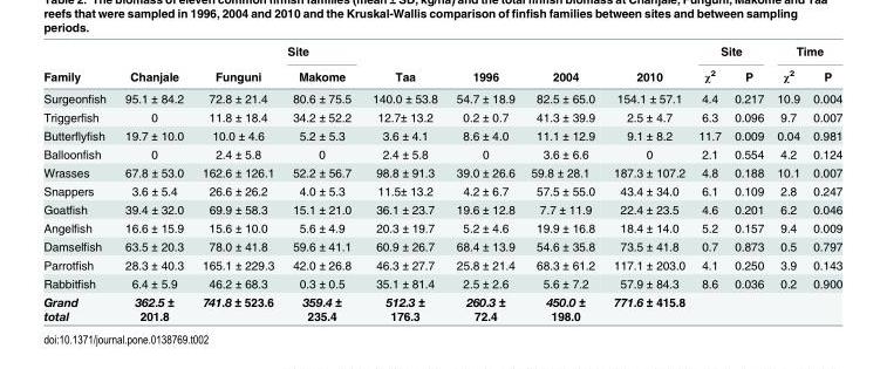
<table><thead><tr><td rowspan="2">Family</td><td rowspan="2">Chanjale</td><td rowspan="2">Funguni</td><td rowspan="2">Site Makome</td><td rowspan="2">Taa</td><td rowspan="2">1996</td><td rowspan="2">2004</td><td rowspan="2">2010</td><td colspan="2">Site</td><td colspan="2">Time</td></tr><tr><td>χ<sup>2</sup></td><td>P</td><td>χ<sup>2</sup></td><td>P</td></tr></thead><tbody><tr><td>Surgeonfish</td><td>95.1 ± 84.2</td><td>72.8 ± 21.4</td><td>80.6 ± 75.5</td><td>140.0 ± 53.8</td><td>54.7 ± 18.9</td><td>82.5 ± 65.0</td><td>154.1 ± 57.1</td><td>4.4</td><td>0.217</td><td>10.9</td><td>0.004</td></tr><tr><td>Triggerfish</td><td>0</td><td>11.8 ± 18.4</td><td>34.2 ± 52.2</td><td>12.7± 13.2</td><td>0.2 ± 0.7</td><td>41.3 ± 39.9</td><td>2.5 ± 4.7</td><td>6.3</td><td>0.096</td><td>9.7</td><td>0.007</td></tr><tr><td>Butterflyfish</td><td>19.7 ± 10.0</td><td>10.0 ± 4.6</td><td>5.2 ± 5.3</td><td>3.6 ± 4.1</td><td>8.6 ± 4.0</td><td>11.1 ± 12.9</td><td>9.1 ± 8.2</td><td>11.7</td><td>0.009</td><td>0.04</td><td>0.981</td></tr><tr><td>Balloonfish</td><td>0</td><td>2.4 ± 5.8</td><td>0</td><td>2.4 ± 5.8</td><td>0</td><td>3.6 ± 6.6</td><td>0</td><td>2.1</td><td>0.554</td><td>4.2</td><td>0.124</td></tr><tr><td>Wrasses</td><td>67.8 ± 53.0</td><td>162.6 ± 126.1</td><td>52.2 ± 56.7</td><td>98.8 ± 91.3</td><td>39.0 ± 26.6</td><td>59.8 ± 28.1</td><td>187.3 ± 107.2</td><td>4.8</td><td>0.188</td><td>10.1</td><td>0.007</td></tr><tr><td>Snappers</td><td>3.6 ± 5.4</td><td>26.6 ± 26.2</td><td>4.0 ± 5.3</td><td>11.5± 13.2</td><td>4.2 ± 6.7</td><td>57.5 ± 55.0</td><td>43.4 ± 34.0</td><td>6.1</td><td>0.109</td><td>2.8</td><td>0.247</td></tr><tr><td>Goatfish</td><td>39.4 ± 32.0</td><td>69.9 ± 58.3</td><td>15.1 ± 21.0</td><td>36.1 ± 23.7</td><td>19.6 ± 12.8</td><td>7.7 ± 11.9</td><td>22.4 ± 23.5</td><td>4.6</td><td>0.201</td><td>6.2</td><td>0.046</td></tr><tr><td>Angelfish</td><td>16.6 ± 15.9</td><td>15.6 ± 10.0</td><td>5.6 ± 4.9</td><td>20.3 ± 19.7</td><td>5.2 ± 4.6</td><td>19.9 ± 16.8</td><td>18.4 ± 14.0</td><td>5.2</td><td>0.157</td><td>9.4</td><td>0.009</td></tr><tr><td>Damselfish</td><td>63.5 ± 20.3</td><td>78.0 ± 41.8</td><td>59.6 ± 41.1</td><td>60.9 ± 26.7</td><td>68.4 ± 13.9</td><td>54.6 ± 35.8</td><td>73.5 ± 41.8</td><td>0.7</td><td>0.873</td><td>0.5</td><td>0.797</td></tr><tr><td>Parrotfish</td><td>28.3 ± 40.3</td><td>165.1 ± 229.3</td><td>42.0 ± 26.8</td><td>46.3 ± 27.7</td><td>25.8 ± 21.4</td><td>68.3 ± 61.2</td><td>117.1 ± 203.0</td><td>4.1</td><td>0.250</td><td>3.9</td><td>0.143</td></tr><tr><td>Rabbitfish</td><td>6.4 ± 5.9</td><td>46.2 ± 68.3</td><td>0.3 ± 0.5</td><td>35.1 ± 81.4</td><td>2.5 ± 2.6</td><td>5.6 ± 7.2</td><td>57.9 ± 84.3</td><td>8.6</td><td>0.036</td><td>0.2</td><td>0.900</td></tr><tr><td>Grand total</td><td>362.5 ± 201.8</td><td>741.8 ± 523.6</td><td>359.4 ± 235.4</td><td>512.3 ± 176.3</td><td>260.3 ± 72.4</td><td>450.0 ± 198.0</td><td>771.6 ± 415.8</td><td></td><td></td><td></td><td></td></tr></tbody></table>